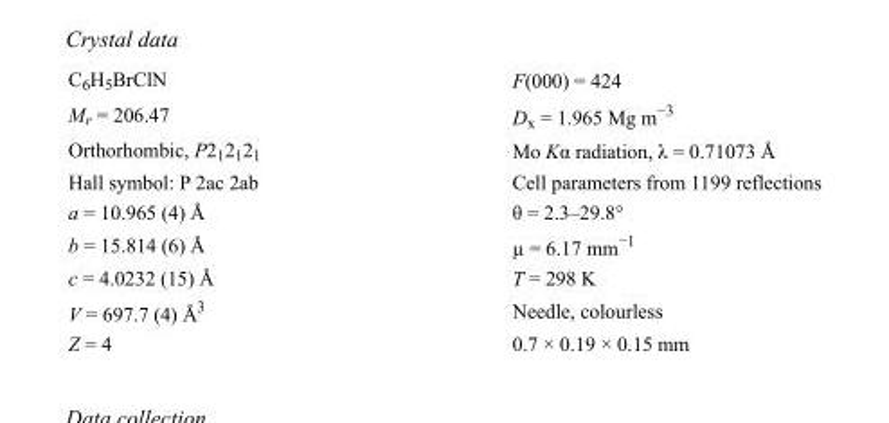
<table><tbody><tr><td>C<sub>6</sub>H<sub>5</sub>BrClN</td><td>F(000) = 424</td></tr><tr><td>M<sub>r</sub> = 206.47</td><td>D<sub>x</sub> = 1.965 Mg m<sup>−3</sup></td></tr><tr><td>Orthorhombic, P2<sub>1</sub>2<sub>1</sub>2<sub>1</sub></td><td>Mo Kα radiation, λ = 0.71073 Å</td></tr><tr><td>Hall symbol: P 2ac 2ab</td><td>Cell parameters from 1199 reflections</td></tr><tr><td>a = 10.965 (4) Å</td><td>θ = 2.3–29.8°</td></tr><tr><td>b = 15.814 (6) Å</td><td>µ = 6.17 mm<sup>−1</sup></td></tr><tr><td>c = 4.0232 (15) Å</td><td>T = 298 K</td></tr><tr><td>V = 697.7 (4) Å<sup>3</sup></td><td>Needle, colourless</td></tr><tr><td>Z = 4</td><td>0.7 × 0.19 × 0.15 mm</td></tr></tbody></table>